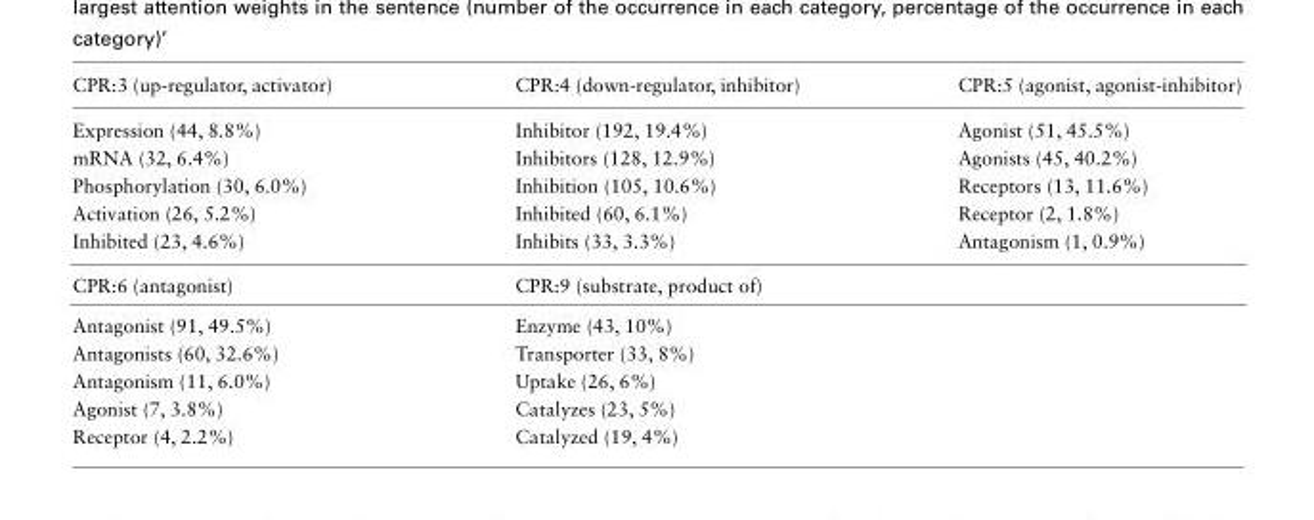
<table><thead><tr><td>CPR:3 (up-regulator, activator)</td><td>CPR:4 (down-regulator, inhibitor)</td><td>CPR:5 (agonist, agonist-inhibitor)</td></tr></thead><tbody><tr><td>Expression (44, 8.8%) mRNA (32, 6.4%) Phosphorylation (30, 6.0%) Activation (26, 5.2%) Inhibited (23, 4.6%)</td><td>Inhibitor (192, 19.4%) Inhibitors (128, 12.9%) Inhibition (105, 10.6%) Inhibited (60, 6.1%) Inhibits (33, 3.3%)</td><td>Agonist (51, 45.5%) Agonists (45, 40.2%) Receptors (13, 11.6%) Receptor (2, 1.8%) Antagonism (1, 0.9%)</td></tr><tr><td>CPR:6 (antagonist)</td><td>CPR:9 (substrate, product of)</td><td></td></tr><tr><td>Antagonist (91, 49.5%) Antagonists (60, 32.6%) Antagonism (11, 6.0%) Agonist (7, 3.8%) Receptor (4, 2.2%)</td><td>Enzyme (43, 10%) Transporter (33, 8%) Uptake (26, 6%) Catalyzes (23, 5%) Catalyzed (19, 4%)</td><td></td></tr></tbody></table>